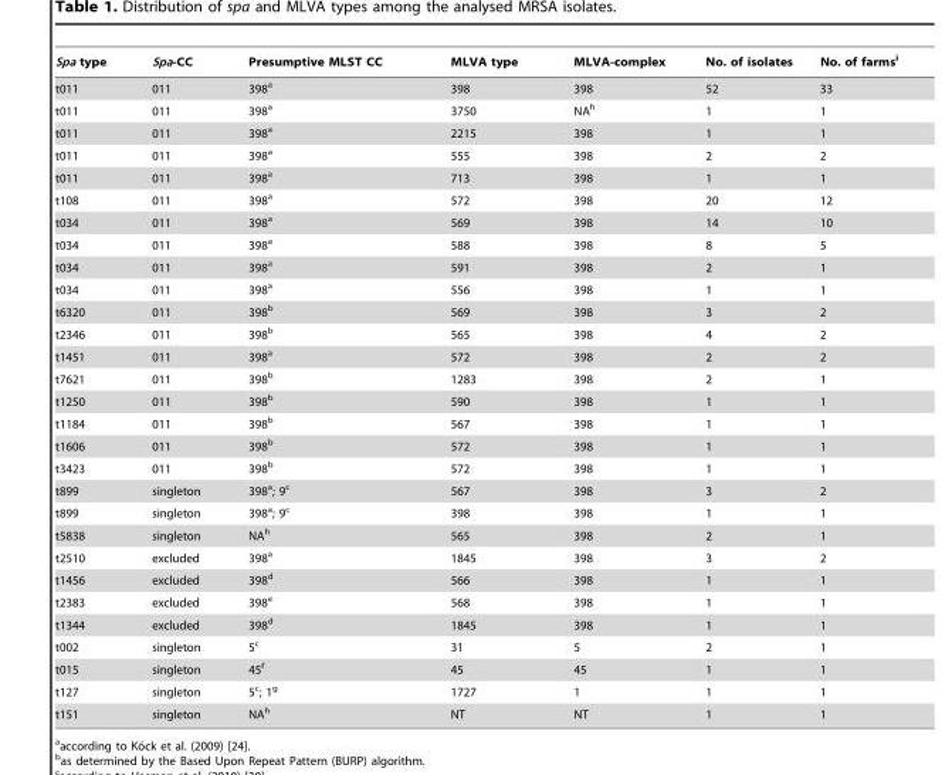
<table><thead><tr><td>Spa type</td><td>Spa-CC</td><td>Presumptive MLST CC</td><td>MLVA type</td><td>MLVA-complex</td><td>No. of isolates</td><td>No. of farms<sup>i</sup></td></tr></thead><tbody><tr><td>t011</td><td>011</td><td>398<sup>a</sup></td><td>398</td><td>398</td><td>52</td><td>33</td></tr><tr><td>t011</td><td>011</td><td>398<sup>a</sup></td><td>3750</td><td>NA<sup>h</sup></td><td>1</td><td>1</td></tr><tr><td>t011</td><td>011</td><td>398<sup>a</sup></td><td>2215</td><td>398</td><td>1</td><td>1</td></tr><tr><td>t011</td><td>011</td><td>398<sup>a</sup></td><td>555</td><td>398</td><td>2</td><td>2</td></tr><tr><td>t011</td><td>011</td><td>398<sup>a</sup></td><td>713</td><td>398</td><td>1</td><td>1</td></tr><tr><td>t108</td><td>011</td><td>398<sup>a</sup></td><td>572</td><td>398</td><td>20</td><td>12</td></tr><tr><td>t034</td><td>011</td><td>398<sup>a</sup></td><td>569</td><td>398</td><td>14</td><td>10</td></tr><tr><td>t034</td><td>011</td><td>398<sup>a</sup></td><td>588</td><td>398</td><td>8</td><td>5</td></tr><tr><td>t034</td><td>011</td><td>398<sup>a</sup></td><td>591</td><td>398</td><td>2</td><td>1</td></tr><tr><td>t034</td><td>011</td><td>398<sup>a</sup></td><td>556</td><td>398</td><td>1</td><td>1</td></tr><tr><td>t6320</td><td>011</td><td>398<sup>b</sup></td><td>569</td><td>398</td><td>3</td><td>2</td></tr><tr><td>t2346</td><td>011</td><td>398<sup>b</sup></td><td>565</td><td>398</td><td>4</td><td>2</td></tr><tr><td>t1451</td><td>011</td><td>398<sup>a</sup></td><td>572</td><td>398</td><td>2</td><td>2</td></tr><tr><td>t7621</td><td>011</td><td>398<sup>b</sup></td><td>1283</td><td>398</td><td>2</td><td>1</td></tr><tr><td>t1250</td><td>011</td><td>398<sup>b</sup></td><td>590</td><td>398</td><td>1</td><td>1</td></tr><tr><td>t1184</td><td>011</td><td>398<sup>b</sup></td><td>567</td><td>398</td><td>1</td><td>1</td></tr><tr><td>t1606</td><td>011</td><td>398<sup>b</sup></td><td>572</td><td>398</td><td>1</td><td>1</td></tr><tr><td>t3423</td><td>011</td><td>398<sup>b</sup></td><td>572</td><td>398</td><td>1</td><td>1</td></tr><tr><td>t899</td><td>singleton</td><td>398<sup>a</sup>; 9<sup>c</sup></td><td>567</td><td>398</td><td>3</td><td>2</td></tr><tr><td>t899</td><td>singleton</td><td>398<sup>a</sup>; 9<sup>c</sup></td><td>398</td><td>398</td><td>1</td><td>1</td></tr><tr><td>t5838</td><td>singleton</td><td>NA<sup>h</sup></td><td>565</td><td>398</td><td>2</td><td>1</td></tr><tr><td>t2510</td><td>excluded</td><td>398<sup>a</sup></td><td>1845</td><td>398</td><td>3</td><td>2</td></tr><tr><td>t1456</td><td>excluded</td><td>398<sup>d</sup></td><td>566</td><td>398</td><td>1</td><td>1</td></tr><tr><td>t2383</td><td>excluded</td><td>398<sup>e</sup></td><td>568</td><td>398</td><td>1</td><td>1</td></tr><tr><td>t1344</td><td>excluded</td><td>398<sup>d</sup></td><td>1845</td><td>398</td><td>1</td><td>1</td></tr><tr><td>t002</td><td>singleton</td><td>5<sup>c</sup></td><td>31</td><td>5</td><td>2</td><td>1</td></tr><tr><td>t015</td><td>singleton</td><td>45<sup>f</sup></td><td>45</td><td>45</td><td>1</td><td>1</td></tr><tr><td>t127</td><td>singleton</td><td>5<sup>c</sup>; 1<sup>g</sup></td><td>1727</td><td>1</td><td>1</td><td>1</td></tr><tr><td>t151</td><td>singleton</td><td>NA<sup>h</sup></td><td>NT</td><td>NT</td><td>1</td><td>1</td></tr></tbody></table>